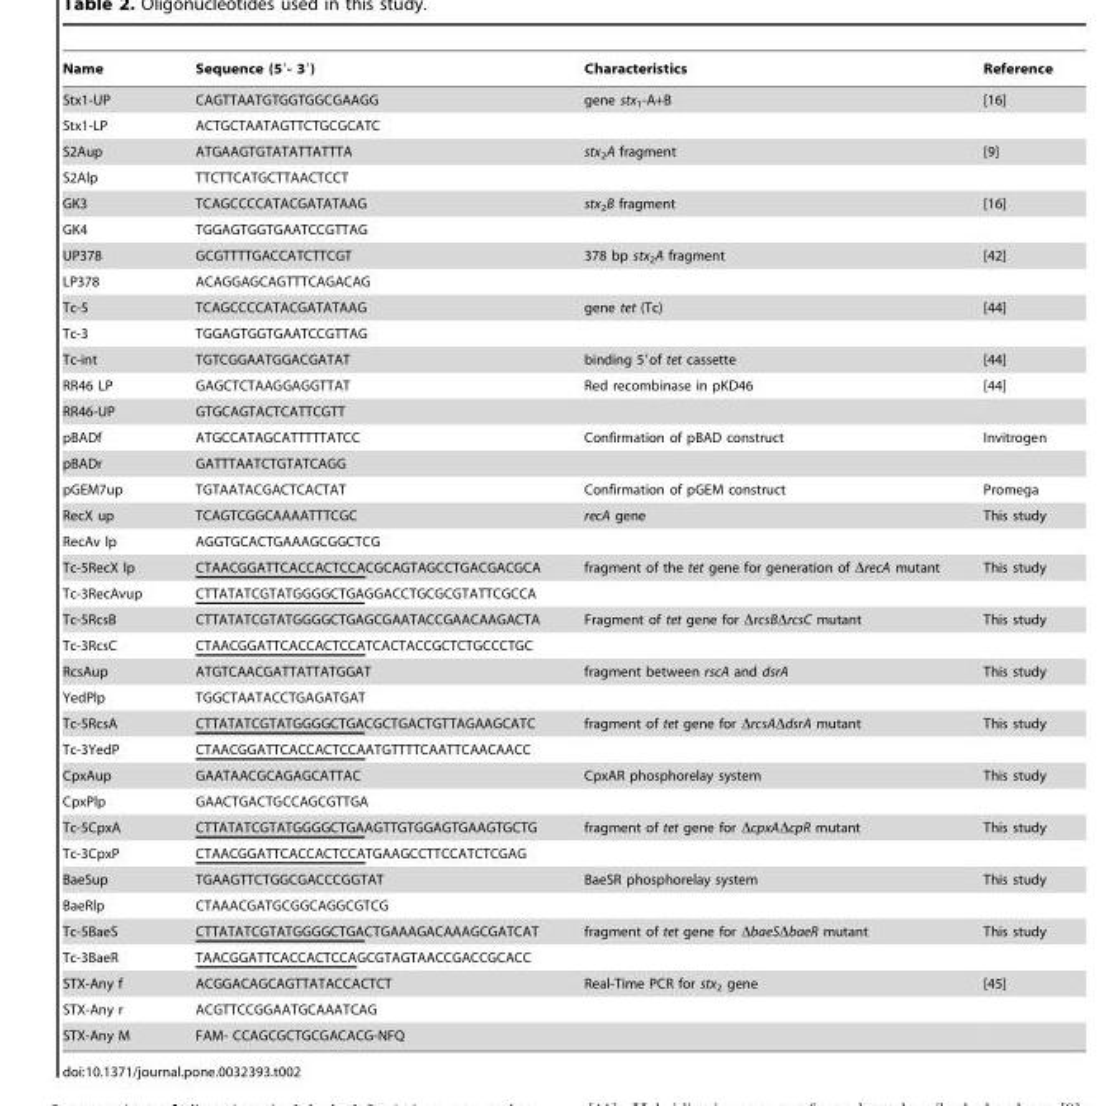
<table><thead><tr><td>Name</td><td>Sequence (5′- 3′)</td><td>Characteristics</td><td>Reference</td></tr></thead><tbody><tr><td>Stx1-UP</td><td>CAGTTAATGTGGTGGCGAAGG</td><td>gene stx<sub>1</sub>-A+B</td><td>[16]</td></tr><tr><td>Stx1-LP</td><td>ACTGCTAATAGTTCTGCGCATC</td><td></td><td></td></tr><tr><td>S2Aup</td><td>ATGAAGTGTATATTATTTA</td><td>stx<sub>2</sub>A fragment</td><td>[9]</td></tr><tr><td>S2Alp</td><td>TTCTTCATGCTTAACTCCT</td><td></td><td></td></tr><tr><td>GK3</td><td>TCAGCCCCATACGATATAAG</td><td>stx<sub>2</sub>B fragment</td><td>[16]</td></tr><tr><td>GK4</td><td>TGGAGTGGTGAATCCGTTAG</td><td></td><td></td></tr><tr><td>UP378</td><td>GCGTTTTGACCATCTTCGT</td><td>378 bp stx<sub>2</sub>A fragment</td><td>[42]</td></tr><tr><td>LP378</td><td>ACAGGAGCAGTTTCAGACAG</td><td></td><td></td></tr><tr><td>Tc-5</td><td>TCAGCCCCATACGATATAAG</td><td>gene tet (Tc)</td><td>[44]</td></tr><tr><td>Tc-3</td><td>TGGAGTGGTGAATCCGTTAG</td><td></td><td></td></tr><tr><td>Tc-int</td><td>TGTCGGAATGGACGATAT</td><td>binding 5′of tet cassette</td><td>[44]</td></tr><tr><td>RR46 LP</td><td>GAGCTCTAAGGAGGTTAT</td><td>Red recombinase in pKD46</td><td>[44]</td></tr><tr><td>RR46-UP</td><td>GTGCAGTACTCATTCGTT</td><td></td><td></td></tr><tr><td>pBADf</td><td>ATGCCATAGCATTTTTATCC</td><td>Confirmation of pBAD construct</td><td>Invitrogen</td></tr><tr><td>pBADr</td><td>GATTTAATCTGTATCAGG</td><td></td><td></td></tr><tr><td>pGEM7up</td><td>TGTAATACGACTCACTAT</td><td>Confirmation of pGEM construct</td><td>Promega</td></tr><tr><td>RecX up</td><td>TCAGTCGGCAAAATTTCGC</td><td>recA gene</td><td>This study</td></tr><tr><td>RecAv lp</td><td>AGGTGCACTGAAAGCGGCTCG</td><td></td><td></td></tr><tr><td>Tc-5RecX lp</td><td>CTAACGGATTCACCACTCCACGCAGTAGCCTGACGACGCA</td><td>fragment of the tet gene for generation of ΔrecA mutant</td><td>This study</td></tr><tr><td>Tc-3RecAvup</td><td>CTTATATCGTATGGGGCTGAGGACCTGCGCGTATTCGCCA</td><td></td><td></td></tr><tr><td>Tc-5RcsB</td><td>CTTATATCGTATGGGGCTGAGCGAATACCGAACAAGACTA</td><td>Fragment of tet gene for ΔrcsBΔrcsC mutant</td><td>This study</td></tr><tr><td>Tc-3RcsC</td><td>CTAACGGATTCACCACTCCATCACTACCGCTCTGCCCTGC</td><td></td><td></td></tr><tr><td>RcsAup</td><td>ATGTCAACGATTATTATGGAT</td><td>fragment between rscA and dsrA</td><td>This study</td></tr><tr><td>YedPlp</td><td>TGGCTAATACCTGAGATGAT</td><td></td><td></td></tr><tr><td>Tc-5RcsA</td><td>CTTATATCGTATGGGGCTGACGCTGACTGTTAGAAGCATC</td><td>fragment of tet gene for ΔrcsAΔdsrA mutant</td><td>This study</td></tr><tr><td>Tc-3YedP</td><td>CTAACGGATTCACCACTCCAATGTTTTCAATTCAACAACC</td><td></td><td></td></tr><tr><td>CpxAup</td><td>GAATAACGCAGAGCATTAC</td><td>CpxAR phosphorelay system</td><td>This study</td></tr><tr><td>CpxPlp</td><td>GAACTGACTGCCAGCGTTGA</td><td></td><td></td></tr><tr><td>Tc-5CpxA</td><td>CTTATATCGTATGGGGCTGAAGTTGTGGAGTGAAGTGCTG</td><td>fragment of tet gene for ΔcpxAΔcpR mutant</td><td>This study</td></tr><tr><td>Tc-3CpxP</td><td>CTAACGGATTCACCACTCCATGAAGCCTTCCATCTCGAG</td><td></td><td></td></tr><tr><td>BaeSup</td><td>TGAAGTTCTGGCGACCCGGTAT</td><td>BaeSR phosphorelay system</td><td>This study</td></tr><tr><td>BaeRlp</td><td>CTAAACGATGCGGCAGGCGTCG</td><td></td><td></td></tr><tr><td>Tc-5BaeS</td><td>CTTATATCGTATGGGGCTGACTGAAAGACAAAGCGATCAT</td><td>fragment of tet gene for ΔbaeSΔbaeR mutant</td><td>This study</td></tr><tr><td>Tc-3BaeR</td><td>TAACGGATTCACCACTCCAGCGTAGTAACCGACCGCACC</td><td></td><td></td></tr><tr><td>STX-Any f</td><td>ACGGACAGCAGTTATACCACTCT</td><td>Real-Time PCR for stx<sub>2</sub> gene</td><td>[45]</td></tr><tr><td>STX-Any r</td><td>ACGTTCCGGAATGCAAATCAG</td><td></td><td></td></tr><tr><td>STX-Any M</td><td>FAM- CCAGCGCTGCGACACG-NFQ</td><td></td><td></td></tr></tbody></table>